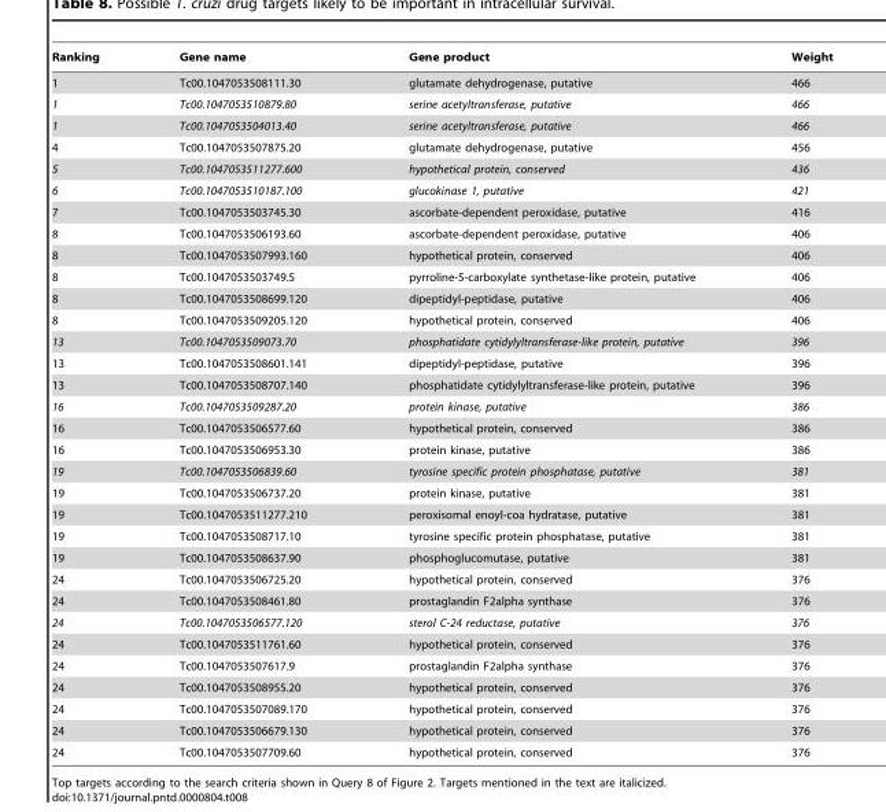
<table><thead><tr><td>Ranking</td><td>Gene name</td><td>Gene product</td><td>Weight</td></tr></thead><tbody><tr><td>1</td><td>Tc00.1047053508111.30</td><td>glutamate dehydrogenase, putative</td><td>466</td></tr><tr><td>1</td><td>Tc00.1047053510879.80</td><td>serine acetyltransferase, putative</td><td>466</td></tr><tr><td>1</td><td>Tc00.1047053504013.40</td><td>serine acetyltransferase, putative</td><td>466</td></tr><tr><td>4</td><td>Tc00.1047053507875.20</td><td>glutamate dehydrogenase, putative</td><td>456</td></tr><tr><td>5</td><td>Tc00.1047053511277.600</td><td>hypothetical protein, conserved</td><td>436</td></tr><tr><td>6</td><td>Tc00.1047053510187.100</td><td>glucokinase 1, putative</td><td>421</td></tr><tr><td>7</td><td>Tc00.1047053503745.30</td><td>ascorbate-dependent peroxidase, putative</td><td>416</td></tr><tr><td>8</td><td>Tc00.1047053506193.60</td><td>ascorbate-dependent peroxidase, putative</td><td>406</td></tr><tr><td>8</td><td>Tc00.1047053507993.160</td><td>hypothetical protein, conserved</td><td>406</td></tr><tr><td>8</td><td>Tc00.1047053503749.5</td><td>pyrroline-5-carboxylate synthetase-like protein, putative</td><td>406</td></tr><tr><td>8</td><td>Tc00.1047053508699.120</td><td>dipeptidyl-peptidase, putative</td><td>406</td></tr><tr><td>8</td><td>Tc00.1047053509205.120</td><td>hypothetical protein, conserved</td><td>406</td></tr><tr><td>13</td><td>Tc00.1047053509073.70</td><td>phosphatidate cytidylyltransferase-like protein, putative</td><td>396</td></tr><tr><td>13</td><td>Tc00.1047053508601.141</td><td>dipeptidyl-peptidase, putative</td><td>396</td></tr><tr><td>13</td><td>Tc00.1047053508707.140</td><td>phosphatidate cytidylyltransferase-like protein, putative</td><td>396</td></tr><tr><td>16</td><td>Tc00.1047053509287.20</td><td>protein kinase, putative</td><td>386</td></tr><tr><td>16</td><td>Tc00.1047053506577.60</td><td>hypothetical protein, conserved</td><td>386</td></tr><tr><td>16</td><td>Tc00.1047053506953.30</td><td>protein kinase, putative</td><td>386</td></tr><tr><td>19</td><td>Tc00.1047053506839.60</td><td>tyrosine specific protein phosphatase, putative</td><td>381</td></tr><tr><td>19</td><td>Tc00.1047053506737.20</td><td>protein kinase, putative</td><td>381</td></tr><tr><td>19</td><td>Tc00.1047053511277.210</td><td>peroxisomal enoyl-coa hydratase, putative</td><td>381</td></tr><tr><td>19</td><td>Tc00.1047053508717.10</td><td>tyrosine specific protein phosphatase, putative</td><td>381</td></tr><tr><td>19</td><td>Tc00.1047053508637.90</td><td>phosphoglucomutase, putative</td><td>381</td></tr><tr><td>24</td><td>Tc00.1047053506725.20</td><td>hypothetical protein, conserved</td><td>376</td></tr><tr><td>24</td><td>Tc00.1047053508461.80</td><td>prostaglandin F2alpha synthase</td><td>376</td></tr><tr><td>24</td><td>Tc00.1047053506577.120</td><td>sterol C-24 reductase, putative</td><td>376</td></tr><tr><td>24</td><td>Tc00.1047053511761.60</td><td>hypothetical protein, conserved</td><td>376</td></tr><tr><td>24</td><td>Tc00.1047053507617.9</td><td>prostaglandin F2alpha synthase</td><td>376</td></tr><tr><td>24</td><td>Tc00.1047053508955.20</td><td>hypothetical protein, conserved</td><td>376</td></tr><tr><td>24</td><td>Tc00.1047053507089.170</td><td>hypothetical protein, conserved</td><td>376</td></tr><tr><td>24</td><td>Tc00.1047053506679.130</td><td>hypothetical protein, conserved</td><td>376</td></tr><tr><td>24</td><td>Tc00.1047053507709.60</td><td>hypothetical protein, conserved</td><td>376</td></tr></tbody></table>